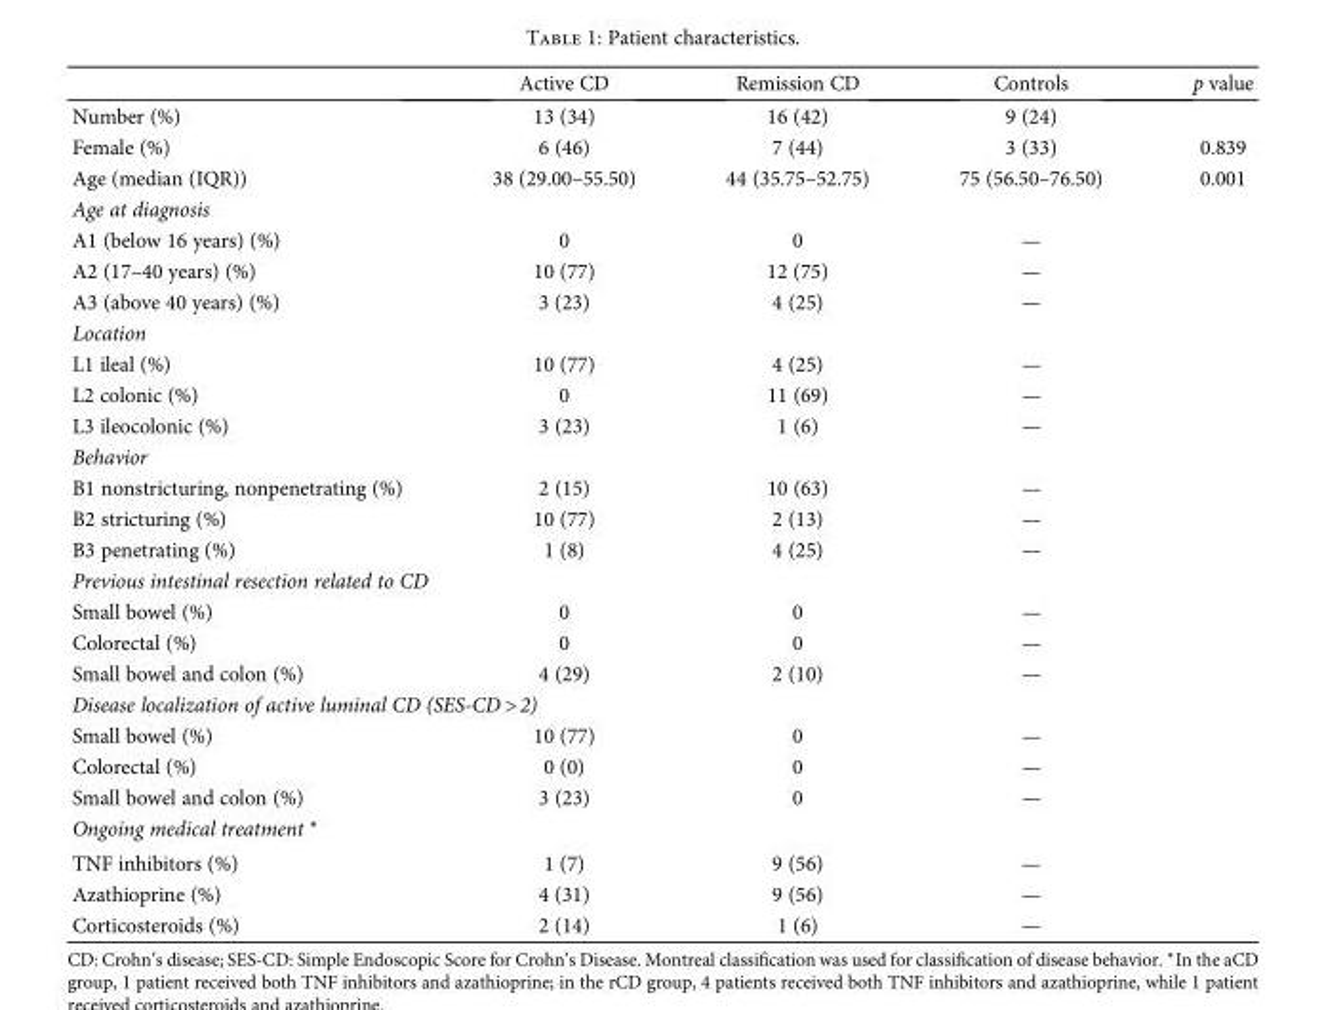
<table><thead><tr><td></td><td>Active CD</td><td>Remission CD</td><td>Controls</td><td>p value</td></tr></thead><tbody><tr><td>Number (%)</td><td>13 (34)</td><td>16 (42)</td><td>9 (24)</td><td></td></tr><tr><td>Female (%)</td><td>6 (46)</td><td>7 (44)</td><td>3 (33)</td><td>0.839</td></tr><tr><td>Age (median (IQR))</td><td>38 (29.00–55.50)</td><td>44 (35.75–52.75)</td><td>75 (56.50–76.50)</td><td>0.001</td></tr><tr><td colspan="5">Age at diagnosis</td></tr><tr><td>A1 (below 16 years) (%)</td><td>0</td><td>0</td><td>—</td><td></td></tr><tr><td>A2 (17–40 years) (%)</td><td>10 (77)</td><td>12 (75)</td><td>—</td><td></td></tr><tr><td>A3 (above 40 years) (%)</td><td>3 (23)</td><td>4 (25)</td><td>—</td><td></td></tr><tr><td colspan="5">Location</td></tr><tr><td>L1 ileal (%)</td><td>10 (77)</td><td>4 (25)</td><td>—</td><td></td></tr><tr><td>L2 colonic (%)</td><td>0</td><td>11 (69)</td><td>—</td><td></td></tr><tr><td>L3 ileocolonic (%)</td><td>3 (23)</td><td>1 (6)</td><td>—</td><td></td></tr><tr><td colspan="5">Behavior</td></tr><tr><td>B1 nonstricturing, nonpenetrating (%)</td><td>2 (15)</td><td>10 (63)</td><td>—</td><td></td></tr><tr><td>B2 stricturing (%)</td><td>10 (77)</td><td>2 (13)</td><td>—</td><td></td></tr><tr><td>B3 penetrating (%)</td><td>1 (8)</td><td>4 (25)</td><td>—</td><td></td></tr><tr><td colspan="5">Previous intestinal resection related to CD</td></tr><tr><td>Small bowel (%)</td><td>0</td><td>0</td><td>—</td><td></td></tr><tr><td>Colorectal (%)</td><td>0</td><td>0</td><td>—</td><td></td></tr><tr><td>Small bowel and colon (%)</td><td>4 (29)</td><td>2 (10)</td><td>—</td><td></td></tr><tr><td colspan="5">Disease localization of active luminal CD (SES-CD &gt; 2)</td></tr><tr><td>Small bowel (%)</td><td>10 (77)</td><td>0</td><td>—</td><td></td></tr><tr><td>Colorectal (%)</td><td>0 (0)</td><td>0</td><td>—</td><td></td></tr><tr><td>Small bowel and colon (%)</td><td>3 (23)</td><td>0</td><td>—</td><td></td></tr><tr><td colspan="5">Ongoing medical treatment ∗</td></tr><tr><td>TNF inhibitors (%)</td><td>1 (7)</td><td>9 (56)</td><td>—</td><td></td></tr><tr><td>Azathioprine (%)</td><td>4 (31)</td><td>9 (56)</td><td>—</td><td></td></tr><tr><td>Corticosteroids (%)</td><td>2 (14)</td><td>1 (6)</td><td>—</td><td></td></tr></tbody></table>